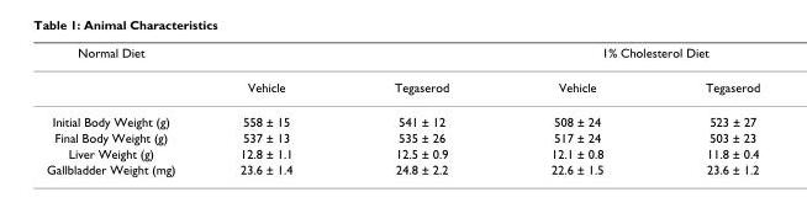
<table><thead><tr><td rowspan="2">Normal Diet</td><td rowspan="2">Vehicle</td><td rowspan="2">Tegaserod</td><td colspan="2">1% Cholesterol Diet</td></tr><tr><td>Vehicle</td><td>Tegaserod</td></tr></thead><tbody><tr><td>Initial Body Weight (g)</td><td>558 ± 15</td><td>541 ± 12</td><td>508 ± 24</td><td>523 ± 27</td></tr><tr><td>Final Body Weight (g)</td><td>537 ± 13</td><td>535 ± 26</td><td>517 ± 24</td><td>503 ± 23</td></tr><tr><td>Liver Weight (g)</td><td>12.8 ± 1.1</td><td>12.5 ± 0.9</td><td>12.1 ± 0.8</td><td>11.8 ± 0.4</td></tr><tr><td>Gallbladder Weight (mg)</td><td>23.6 ± 1.4</td><td>24.8 ± 2.2</td><td>22.6 ± 1.5</td><td>23.6 ± 1.2</td></tr></tbody></table>